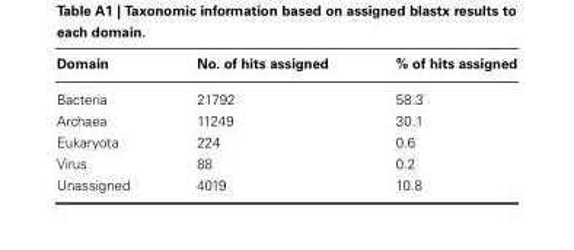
<table><thead><tr><td>Domain</td><td>No. of hits assigned</td><td>% of hits assigned</td></tr></thead><tbody><tr><td>Bacteria</td><td>21792</td><td>58.3</td></tr><tr><td>Archaea</td><td>11249</td><td>30.1</td></tr><tr><td>Eukaryota</td><td>224</td><td>0.6</td></tr><tr><td>Virus</td><td>88</td><td>0.2</td></tr><tr><td>Unassigned</td><td>4019</td><td>10.8</td></tr></tbody></table>